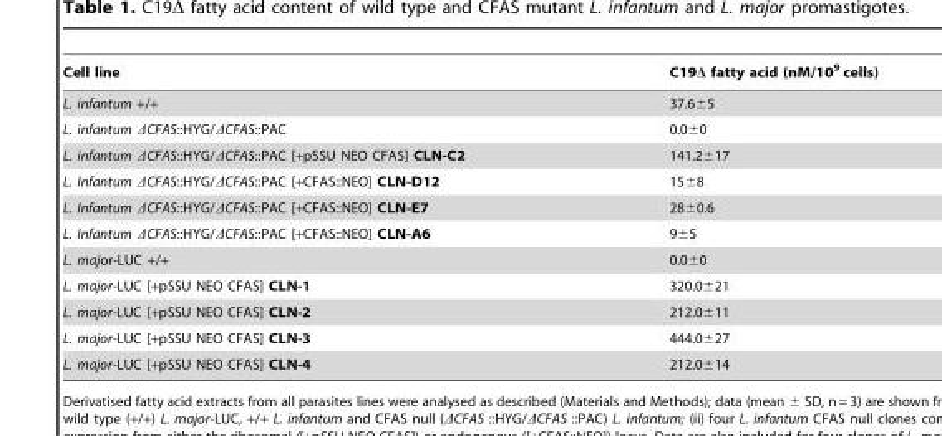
<table><thead><tr><td>Cell line</td><td>C19Δ fatty acid (nM/10<sup>9</sup> cells)</td></tr></thead><tbody><tr><td>L. infantum +/+</td><td>37.6±5</td></tr><tr><td>L. infantum ΔCFAS::HYG/ΔCFAS::PAC</td><td>0.0±0</td></tr><tr><td>L. infantum ΔCFAS::HYG/ΔCFAS::PAC [+pSSU NEO CFAS] CLN-C2</td><td>141.2±17</td></tr><tr><td>L. Infantum ΔCFAS::HYG/ΔCFAS::PAC [+CFAS::NEO] CLN-D12</td><td>15±8</td></tr><tr><td>L. Infantum ΔCFAS::HYG/ΔCFAS::PAC [+CFAS::NEO] CLN-E7</td><td>28±0.6</td></tr><tr><td>L. Infantum ΔCFAS::HYG/ΔCFAS::PAC [+CFAS::NEO] CLN-A6</td><td>9±5</td></tr><tr><td>L. major-LUC +/+</td><td>0.0±0</td></tr><tr><td>L. major-LUC [+pSSU NEO CFAS] CLN-1</td><td>320.0±21</td></tr><tr><td>L. major-LUC [+pSSU NEO CFAS] CLN-2</td><td>212.0±11</td></tr><tr><td>L. major-LUC [+pSSU NEO CFAS] CLN-3</td><td>444.0±27</td></tr><tr><td>L. major-LUC [+pSSU NEO CFAS] CLN-4</td><td>212.0±14</td></tr></tbody></table>